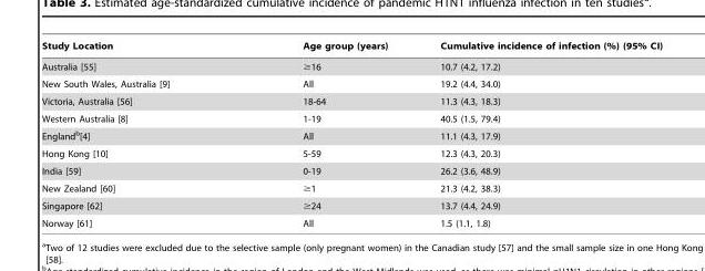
<table><thead><tr><td>Study Location</td><td>Age group (years)</td><td>Cumulative incidence of infection (%) (95% CI)</td></tr></thead><tbody><tr><td>Australia [55]</td><td>≥16</td><td>10.7 (4.2, 17.2)</td></tr><tr><td>New South Wales, Australia [9]</td><td>All</td><td>19.2 (4.4, 34.0)</td></tr><tr><td>Victoria, Australia [56]</td><td>18-64</td><td>11.3 (4.3, 18.3)</td></tr><tr><td>Western Australia [8]</td><td>1-19</td><td>40.5 (1.5, 79.4)</td></tr><tr><td>England<sup>b</sup>[4]</td><td>All</td><td>11.1 (4.3, 17.9)</td></tr><tr><td>Hong Kong [10]</td><td>5-59</td><td>12.3 (4.3, 20.3)</td></tr><tr><td>India [59]</td><td>0-19</td><td>26.2 (3.6, 48.9)</td></tr><tr><td>New Zealand [60]</td><td>≥1</td><td>21.3 (4.2, 38.3)</td></tr><tr><td>Singapore [62]</td><td>≥24</td><td>13.7 (4.4, 24.9)</td></tr><tr><td>Norway [61]</td><td>All</td><td>1.5 (1.1, 1.8)</td></tr></tbody></table>